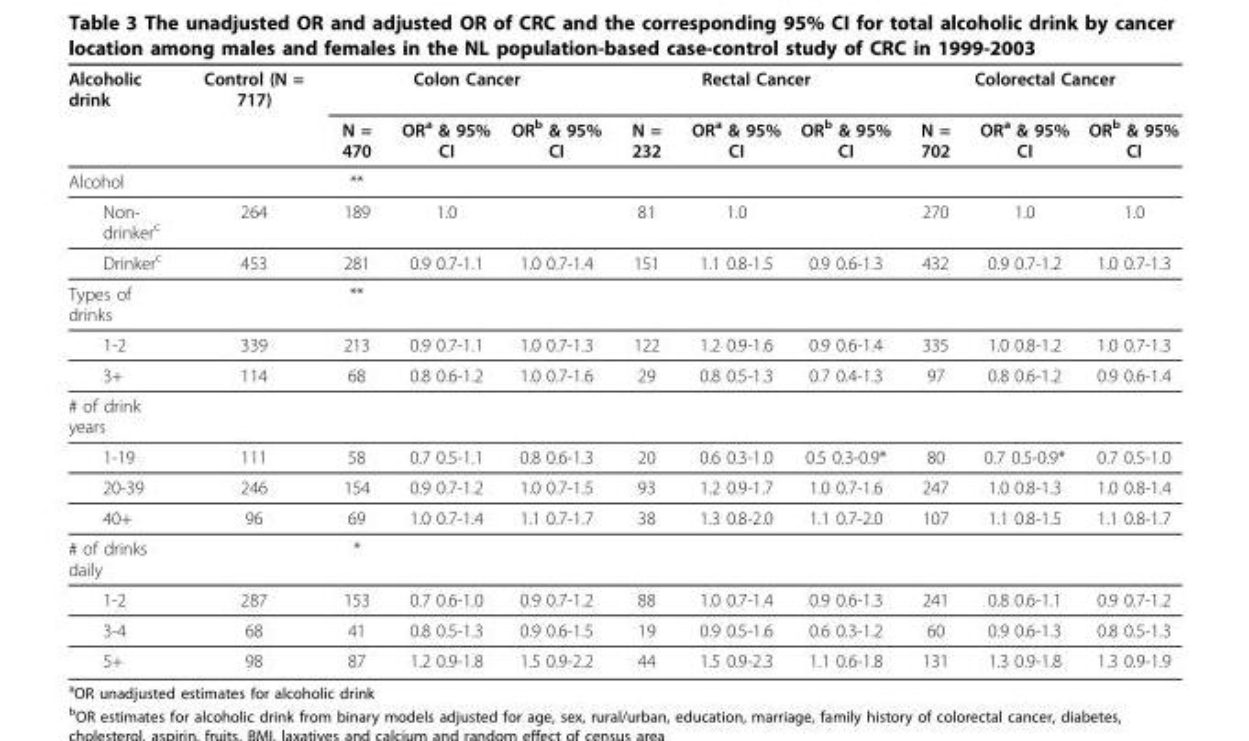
<table><thead><tr><td rowspan="2">Alcoholic drink</td><td rowspan="2">Control (N = 717)</td><td colspan="3">Colon Cancer</td><td colspan="3">Rectal Cancer</td><td colspan="3">Colorectal Cancer</td></tr><tr><td>N = 470</td><td>OR<sup>a</sup> &amp; 95% CI</td><td>OR<sup>b</sup> &amp; 95% CI</td><td>N = 232</td><td>OR<sup>a</sup> &amp; 95% CI</td><td>OR<sup>b</sup> &amp; 95% CI</td><td>N = 702</td><td>OR<sup>a</sup> &amp; 95% CI</td><td>OR<sup>b</sup> &amp; 95% CI</td></tr></thead><tbody><tr><td>Alcohol</td><td></td><td>**</td><td></td><td></td><td></td><td></td><td></td><td></td><td></td><td></td></tr><tr><td>Non- drinker<sup>c</sup></td><td>264</td><td>189</td><td>1.0</td><td></td><td>81</td><td>1.0</td><td></td><td>270</td><td>1.0</td><td>1.0</td></tr><tr><td>Drinker<sup>c</sup></td><td>453</td><td>281</td><td>0.9 0.7-1.1</td><td>1.0 0.7-1.4</td><td>151</td><td>1.1 0.8-1.5</td><td>0.9 0.6-1.3</td><td>432</td><td>0.9 0.7-1.2</td><td>1.0 0.7-1.3</td></tr><tr><td>Types of drinks</td><td></td><td>**</td><td></td><td></td><td></td><td></td><td></td><td></td><td></td><td></td></tr><tr><td>1-2</td><td>339</td><td>213</td><td>0.9 0.7-1.1</td><td>1.0 0.7-1.3</td><td>122</td><td>1.2 0.9-1.6</td><td>0.9 0.6-1.4</td><td>335</td><td>1.0 0.8-1.2</td><td>1.0 0.7-1.3</td></tr><tr><td>3+</td><td>114</td><td>68</td><td>0.8 0.6-1.2</td><td>1.0 0.7-1.6</td><td>29</td><td>0.8 0.5-1.3</td><td>0.7 0.4-1.3</td><td>97</td><td>0.8 0.6-1.2</td><td>0.9 0.6-1.4</td></tr><tr><td colspan="11"># of drink years</td></tr><tr><td>1-19</td><td>111</td><td>58</td><td>0.7 0.5-1.1</td><td>0.8 0.6-1.3</td><td>20</td><td>0.6 0.3-1.0</td><td>0.5 0.3-0.9*</td><td>80</td><td>0.7 0.5-0.9*</td><td>0.7 0.5-1.0</td></tr><tr><td>20-39</td><td>246</td><td>154</td><td>0.9 0.7-1.2</td><td>1.0 0.7-1.5</td><td>93</td><td>1.2 0.9-1.7</td><td>1.0 0.7-1.6</td><td>247</td><td>1.0 0.8-1.3</td><td>1.0 0.8-1.4</td></tr><tr><td>40+</td><td>96</td><td>69</td><td>1.0 0.7-1.4</td><td>1.1 0.7-1.7</td><td>38</td><td>1.3 0.8-2.0</td><td>1.1 0.7-2.0</td><td>107</td><td>1.1 0.8-1.5</td><td>1.1 0.8-1.7</td></tr><tr><td># of drinks daily</td><td></td><td>*</td><td></td><td></td><td></td><td></td><td></td><td></td><td></td><td></td></tr><tr><td>1-2</td><td>287</td><td>153</td><td>0.7 0.6-1.0</td><td>0.9 0.7-1.2</td><td>88</td><td>1.0 0.7-1.4</td><td>0.9 0.6-1.3</td><td>241</td><td>0.8 0.6-1.1</td><td>0.9 0.7-1.2</td></tr><tr><td>3-4</td><td>68</td><td>41</td><td>0.8 0.5-1.3</td><td>0.9 0.6-1.5</td><td>19</td><td>0.9 0.5-1.6</td><td>0.6 0.3-1.2</td><td>60</td><td>0.9 0.6-1.3</td><td>0.8 0.5-1.3</td></tr><tr><td>5+</td><td>98</td><td>87</td><td>1.2 0.9-1.8</td><td>1.5 0.9-2.2</td><td>44</td><td>1.5 0.9-2.3</td><td>1.1 0.6-1.8</td><td>131</td><td>1.3 0.9-1.8</td><td>1.3 0.9-1.9</td></tr></tbody></table>